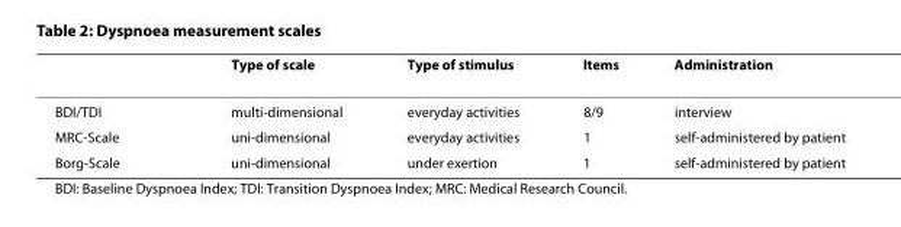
<table><thead><tr><td></td><td>Type of scale</td><td>Type of stimulus</td><td>Items</td><td>Administration</td></tr></thead><tbody><tr><td>BDI/TDI</td><td>multi-dimensional</td><td>everyday activities</td><td>8/9</td><td>interview</td></tr><tr><td>MRC-Scale</td><td>uni-dimensional</td><td>everyday activities</td><td>1</td><td>self-administered by patient</td></tr><tr><td>Borg-Scale</td><td>uni-dimensional</td><td>under exertion</td><td>1</td><td>self-administered by patient</td></tr></tbody></table>